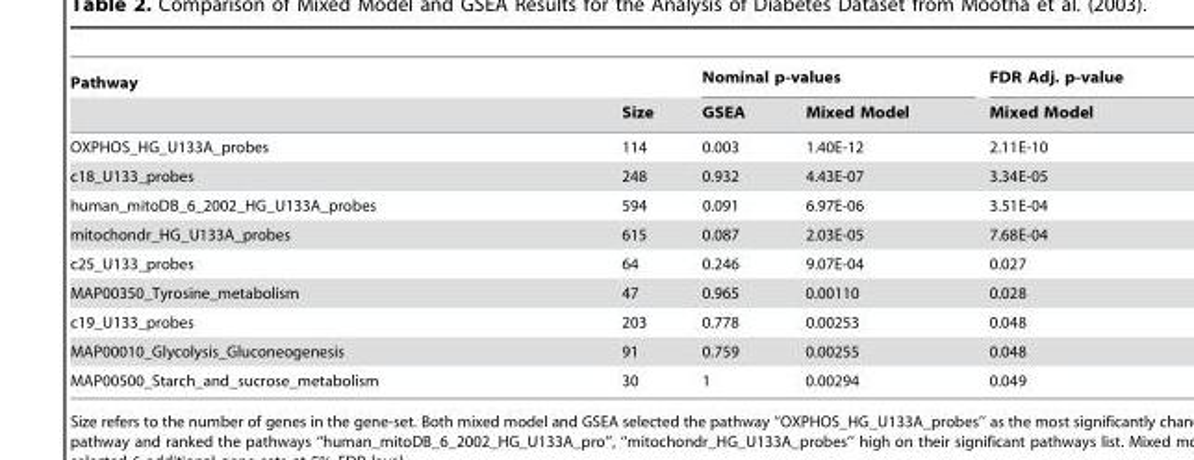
<table><thead><tr><td rowspan="2">Pathway</td><td rowspan="2">Size</td><td colspan="2">Nominal p-values</td><td rowspan="2">FDR Adj. p-value Mixed Model</td></tr><tr><td>GSEA</td><td>Mixed Model</td></tr></thead><tbody><tr><td>OXPHOS_HG_U133A_probes</td><td>114</td><td>0.003</td><td>1.40E-12</td><td>2.11E-10</td></tr><tr><td>c18_U133_probes</td><td>248</td><td>0.932</td><td>4.43E-07</td><td>3.34E-05</td></tr><tr><td>human_mitoDB_6_2002_HG_U133A_probes</td><td>594</td><td>0.091</td><td>6.97E-06</td><td>3.51E-04</td></tr><tr><td>mitochondr_HG_U133A_probes</td><td>615</td><td>0.087</td><td>2.03E-05</td><td>7.68E-04</td></tr><tr><td>c25_U133_probes</td><td>64</td><td>0.246</td><td>9.07E-04</td><td>0.027</td></tr><tr><td>MAP00350_Tyrosine_metabolism</td><td>47</td><td>0.965</td><td>0.00110</td><td>0.028</td></tr><tr><td>c19_U133_probes</td><td>203</td><td>0.778</td><td>0.00253</td><td>0.048</td></tr><tr><td>MAP00010_Glycolysis_Gluconeogenesis</td><td>91</td><td>0.759</td><td>0.00255</td><td>0.048</td></tr><tr><td>MAP00500_Starch_and_sucrose_metabolism</td><td>30</td><td>1</td><td>0.00294</td><td>0.049</td></tr></tbody></table>